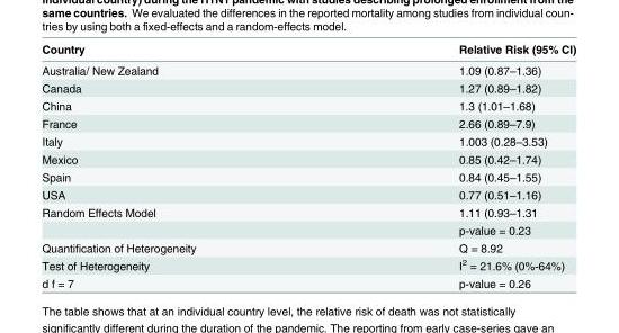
<table><thead><tr><td>Country</td><td>Relative Risk (95% CI)</td></tr></thead><tbody><tr><td>Australia/ New Zealand</td><td>1.09 (0.87–1.36)</td></tr><tr><td>Canada</td><td>1.27 (0.89–1.82)</td></tr><tr><td>China</td><td>1.3 (1.01–1.68)</td></tr><tr><td>France</td><td>2.66 (0.89–7.9)</td></tr><tr><td>Italy</td><td>1.003 (0.28–3.53)</td></tr><tr><td>Mexico</td><td>0.85 (0.42–1.74)</td></tr><tr><td>Spain</td><td>0.84 (0.45–1.55)</td></tr><tr><td>USA</td><td>0.77 (0.51–1.16)</td></tr><tr><td rowspan="2">Random Effects Model</td><td>1.11 (0.93–1.31</td></tr><tr><td>p-value = 0.23</td></tr><tr><td>Quantification of Heterogeneity</td><td>Q = 8.92</td></tr><tr><td>Test of Heterogeneity</td><td>I<sup>2</sup> = 21.6% (0%-64%)</td></tr><tr><td>d f = 7</td><td>p-value = 0.26</td></tr></tbody></table>